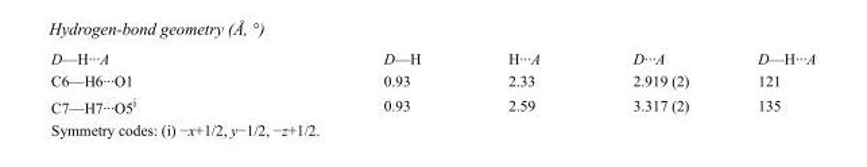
<table><tbody><tr><td>D—H···A</td><td>D—H</td><td>H···A</td><td>D···A</td><td>D—H···A</td></tr><tr><td>C6—H6···O1</td><td>0.93</td><td>2.33</td><td>2.919 (2)</td><td>121</td></tr><tr><td>C7—H7···O5<sup>i</sup></td><td>0.93</td><td>2.59</td><td>3.317 (2)</td><td>135</td></tr></tbody></table>